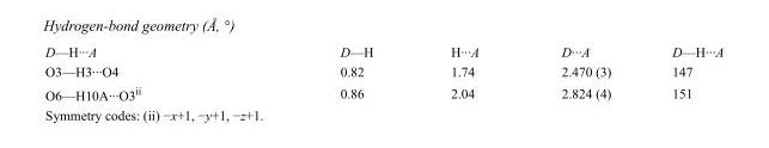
<table><tbody><tr><td>D—H···A</td><td>D—H</td><td>H···A</td><td>D···A</td><td>D—H···A</td></tr><tr><td>O3—H3···O4</td><td>0.82</td><td>1.74</td><td>2.470 (3)</td><td>147</td></tr><tr><td>O6—H10A···O3<sup>ii</sup></td><td>0.86</td><td>2.04</td><td>2.824 (4)</td><td>151</td></tr></tbody></table>